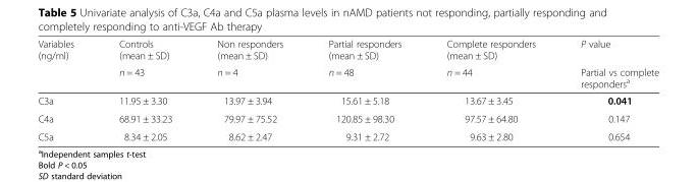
<table><thead><tr><td rowspan="2">Variables (ng/ml)</td><td rowspan="2">Controls (mean ± SD) n = 43</td><td rowspan="2">Non responders (mean ± SD) n = 4</td><td rowspan="2">Partial responders (mean ± SD) n = 48</td><td rowspan="2">Complete responders (mean ± SD) n = 44</td><td rowspan="2">P value Partial vs complete responders<sup>a</sup></td></tr><tr></tr></thead><tbody><tr><td>C3a</td><td>11.95 ± 3.30</td><td>13.97 ± 3.94</td><td>15.61 ± 5.18</td><td>13.67 ± 3.45</td><td>0.041</td></tr><tr><td>C4a</td><td>68.91 ± 33.23</td><td>79.97 ± 75.52</td><td>120.85 ± 98.30</td><td>97.57 ± 64.80</td><td>0.147</td></tr><tr><td>C5a</td><td>8.34 ± 2.05</td><td>8.62 ± 2.47</td><td>9.31 ± 2.72</td><td>9.63 ± 2.80</td><td>0.654</td></tr></tbody></table>